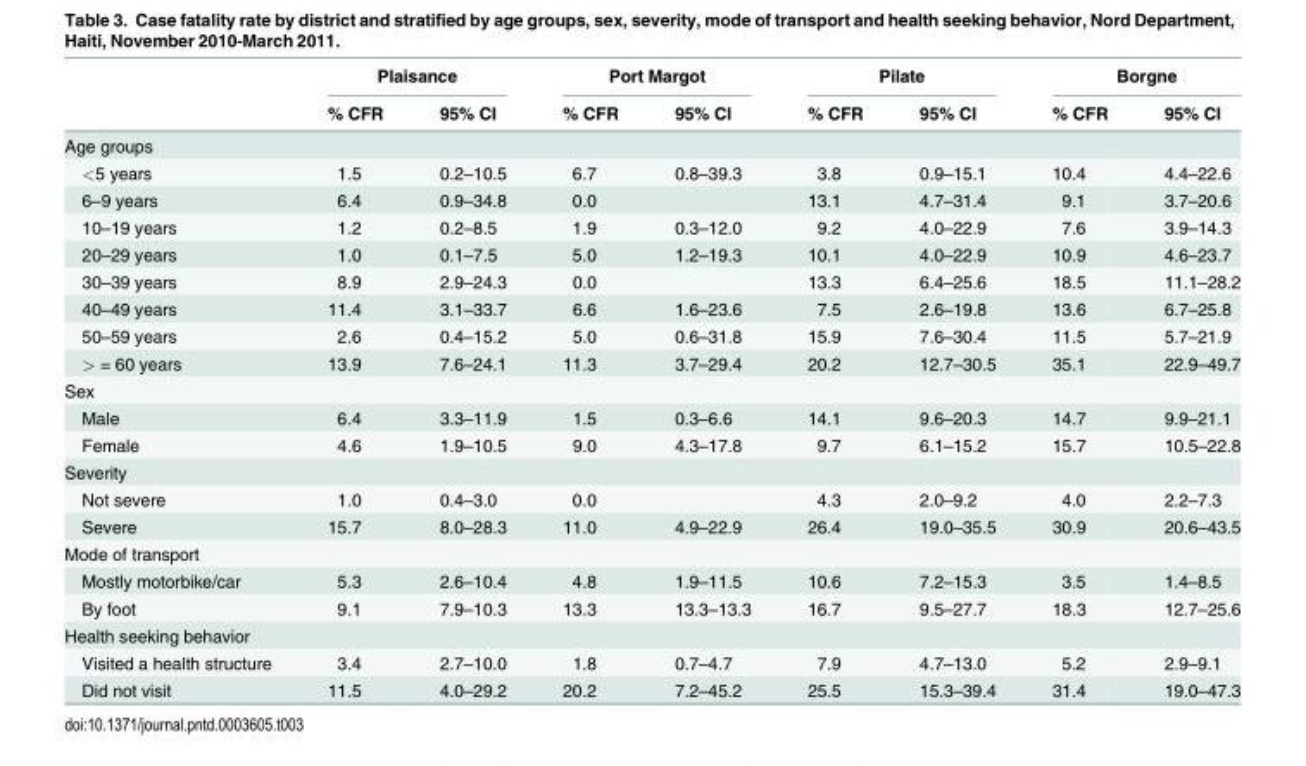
<table><thead><tr><td rowspan="2"></td><td colspan="2">Plaisance</td><td colspan="2">Port Margot</td><td colspan="2">Pilate</td><td colspan="2">Borgne</td></tr><tr><td>% CFR</td><td>95% CI</td><td>% CFR</td><td>95% CI</td><td>% CFR</td><td>95% CI</td><td>% CFR</td><td>95% CI</td></tr></thead><tbody><tr><td colspan="9">Age groups</td></tr><tr><td>&lt;5 years</td><td>1.5</td><td>0.2–10.5</td><td>6.7</td><td>0.8–39.3</td><td>3.8</td><td>0.9–15.1</td><td>10.4</td><td>4.4–22.6</td></tr><tr><td>6–9 years</td><td>6.4</td><td>0.9–34.8</td><td>0.0</td><td></td><td>13.1</td><td>4.7–31.4</td><td>9.1</td><td>3.7–20.6</td></tr><tr><td>10–19 years</td><td>1.2</td><td>0.2–8.5</td><td>1.9</td><td>0.3–12.0</td><td>9.2</td><td>4.0–22.9</td><td>7.6</td><td>3.9–14.3</td></tr><tr><td>20–29 years</td><td>1.0</td><td>0.1–7.5</td><td>5.0</td><td>1.2–19.3</td><td>10.1</td><td>4.0–22.9</td><td>10.9</td><td>4.6–23.7</td></tr><tr><td>30–39 years</td><td>8.9</td><td>2.9–24.3</td><td>0.0</td><td></td><td>13.3</td><td>6.4–25.6</td><td>18.5</td><td>11.1–28.2</td></tr><tr><td>40–49 years</td><td>11.4</td><td>3.1–33.7</td><td>6.6</td><td>1.6–23.6</td><td>7.5</td><td>2.6–19.8</td><td>13.6</td><td>6.7–25.8</td></tr><tr><td>50–59 years</td><td>2.6</td><td>0.4–15.2</td><td>5.0</td><td>0.6–31.8</td><td>15.9</td><td>7.6–30.4</td><td>11.5</td><td>5.7–21.9</td></tr><tr><td>&gt; = 60 years</td><td>13.9</td><td>7.6–24.1</td><td>11.3</td><td>3.7–29.4</td><td>20.2</td><td>12.7–30.5</td><td>35.1</td><td>22.9–49.7</td></tr><tr><td colspan="9">Sex</td></tr><tr><td>Male</td><td>6.4</td><td>3.3–11.9</td><td>1.5</td><td>0.3–6.6</td><td>14.1</td><td>9.6–20.3</td><td>14.7</td><td>9.9–21.1</td></tr><tr><td>Female</td><td>4.6</td><td>1.9–10.5</td><td>9.0</td><td>4.3–17.8</td><td>9.7</td><td>6.1–15.2</td><td>15.7</td><td>10.5–22.8</td></tr><tr><td colspan="9">Severity</td></tr><tr><td>Not severe</td><td>1.0</td><td>0.4–3.0</td><td>0.0</td><td></td><td>4.3</td><td>2.0–9.2</td><td>4.0</td><td>2.2–7.3</td></tr><tr><td>Severe</td><td>15.7</td><td>8.0–28.3</td><td>11.0</td><td>4.9–22.9</td><td>26.4</td><td>19.0–35.5</td><td>30.9</td><td>20.6–43.5</td></tr><tr><td colspan="9">Mode of transport</td></tr><tr><td>Mostly motorbike/car</td><td>5.3</td><td>2.6–10.4</td><td>4.8</td><td>1.9–11.5</td><td>10.6</td><td>7.2–15.3</td><td>3.5</td><td>1.4–8.5</td></tr><tr><td>By foot</td><td>9.1</td><td>7.9–10.3</td><td>13.3</td><td>13.3–13.3</td><td>16.7</td><td>9.5–27.7</td><td>18.3</td><td>12.7–25.6</td></tr><tr><td colspan="9">Health seeking behavior</td></tr><tr><td>Visited a health structure</td><td>3.4</td><td>2.7–10.0</td><td>1.8</td><td>0.7–4.7</td><td>7.9</td><td>4.7–13.0</td><td>5.2</td><td>2.9–9.1</td></tr><tr><td>Did not visit</td><td>11.5</td><td>4.0–29.2</td><td>20.2</td><td>7.2–45.2</td><td>25.5</td><td>15.3–39.4</td><td>31.4</td><td>19.0–47.3</td></tr></tbody></table>